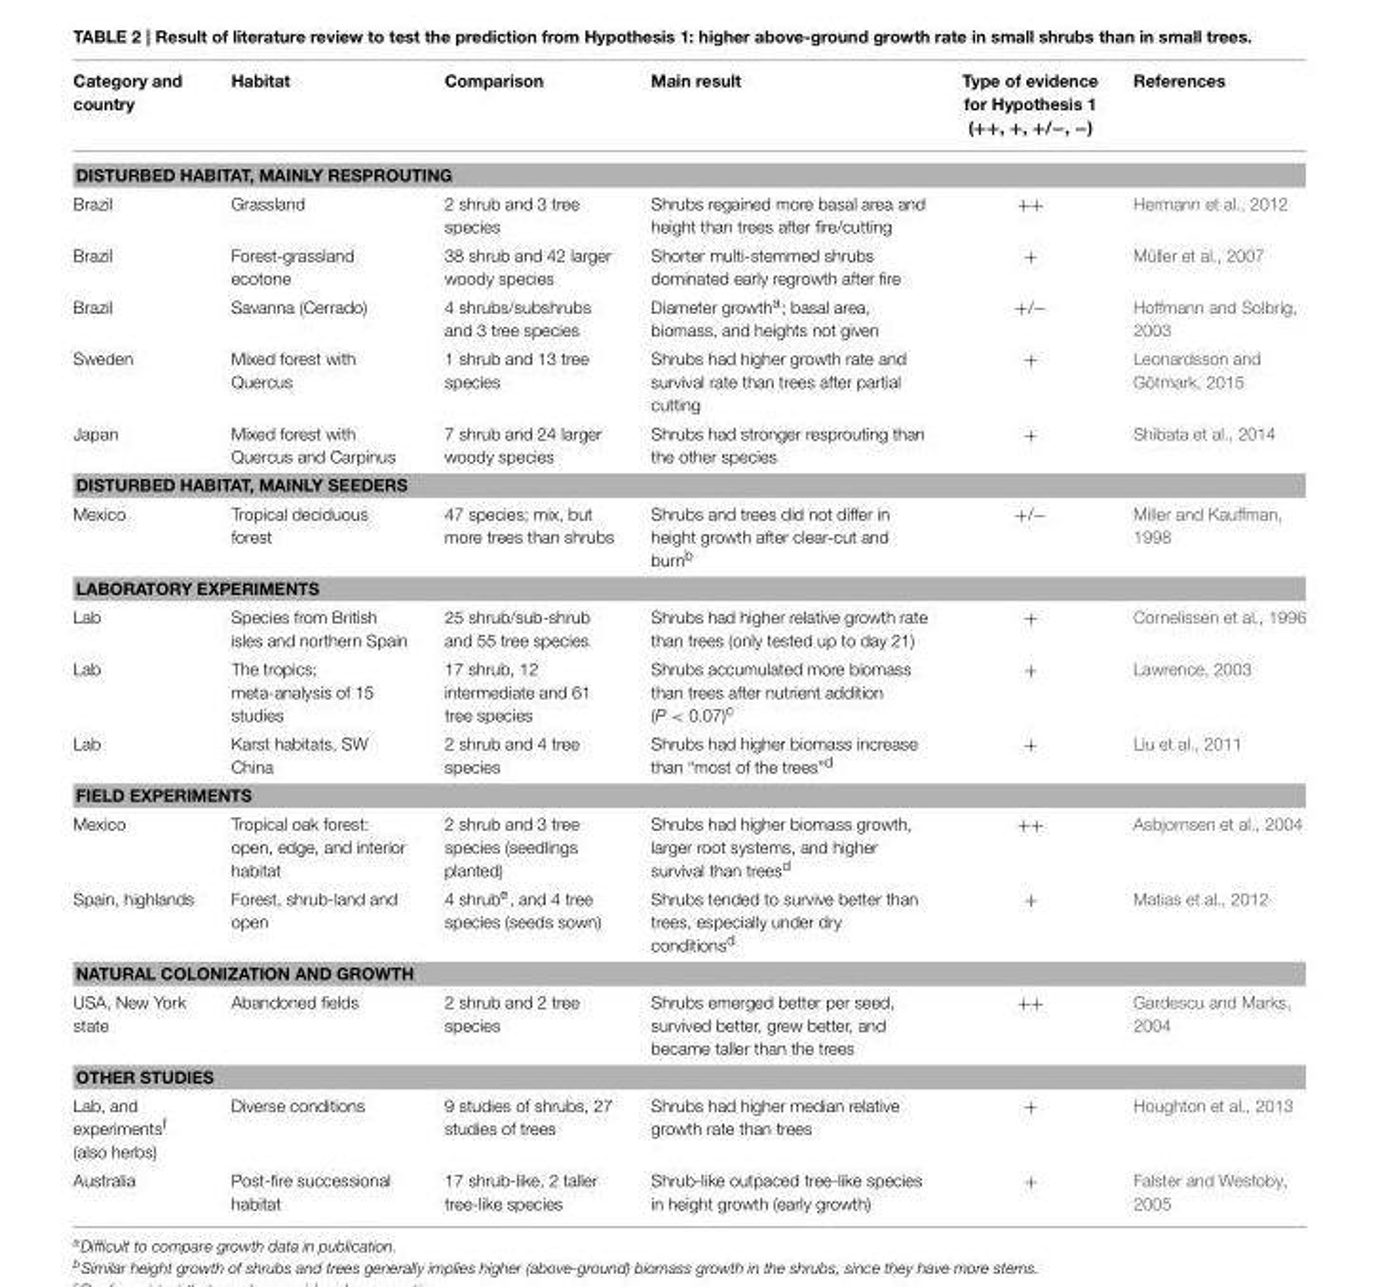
<table><thead><tr><td>Category and country</td><td>Habitat</td><td>Comparison</td><td>Main result</td><td>Type of evidence for Hypothesis 1 (++, +, +/−, −)</td><td>References</td></tr></thead><tbody><tr><td colspan="6">DISTURBED HABITAT, MAINLY RESPROUTING</td></tr><tr><td>Brazil</td><td>Grassland</td><td>2 shrub and 3 tree species</td><td>Shrubs regained more basal area and height than trees after fire/cutting</td><td>++</td><td>Hermann et al., 2012</td></tr><tr><td>Brazil</td><td>Forest-grassland ecotone</td><td>38 shrub and 42 larger woody species</td><td>Shorter multi-stemmed shrubs dominated early regrowth after fire</td><td>+</td><td>Müller et al., 2007</td></tr><tr><td>Brazil</td><td>Savanna (Cerrado)</td><td>4 shrubs/subshrubs and 3 tree species</td><td>Diameter growth<sup>a</sup>; basal area, biomass, and heights not given</td><td>+/−</td><td>Hoffmann and Solbrig, 2003</td></tr><tr><td>Sweden</td><td>Mixed forest with Quercus</td><td>1 shrub and 13 tree species</td><td>Shrubs had higher growth rate and survival rate than trees after partial cutting</td><td>+</td><td>Leonardsson and Götmark, 2015</td></tr><tr><td>Japan</td><td>Mixed forest with Quercus and Carpinus</td><td>7 shrub and 24 larger woody species</td><td>Shrubs had stronger resprouting than the other species</td><td>+</td><td>Shibata et al., 2014</td></tr><tr><td colspan="6">DISTURBED HABITAT, MAINLY SEEDERS</td></tr><tr><td>Mexico</td><td>Tropical deciduous forest</td><td>47 species; mix, but more trees than shrubs</td><td>Shrubs and trees did not differ in height growth after clear-cut and burn<sup>b</sup></td><td>+/−</td><td>Miller and Kauffman, 1998</td></tr><tr><td colspan="6">LABORATORY EXPERIMENTS</td></tr><tr><td>Lab</td><td>Species from British isles and northern Spain</td><td>25 shrub/sub-shrub and 55 tree species</td><td>Shrubs had higher relative growth rate than trees (only tested up to day 21)</td><td>+</td><td>Cornelissen et al., 1996</td></tr><tr><td>Lab</td><td>The tropics; meta-analysis of 15 studies</td><td>17 shrub, 12 intermediate and 61 tree species</td><td>Shrubs accumulated more biomass than trees after nutrient addition (P &lt; 0.07)<sup>c</sup></td><td>+</td><td>Lawrence, 2003</td></tr><tr><td>Lab</td><td>Karst habitats, SW China</td><td>2 shrub and 4 tree species</td><td>Shrubs had higher biomass increase than “most of the trees”<sup>d</sup></td><td>+</td><td>Liu et al., 2011</td></tr><tr><td colspan="6">FIELD EXPERIMENTS</td></tr><tr><td>Mexico</td><td>Tropical oak forest: open, edge, and interior habitat</td><td>2 shrub and 3 tree species (seedlings planted)</td><td>Shrubs had higher biomass growth, larger root systems, and higher survival than trees<sup>d</sup></td><td>++</td><td>Asbjornsen et al., 2004</td></tr><tr><td>Spain, highlands</td><td>Forest, shrub-land and open</td><td>4 shrub<sup>e</sup>, and 4 tree species (seeds sown)</td><td>Shrubs tended to survive better than trees, especially under dry conditions<sup>d</sup></td><td>+</td><td>Matias et al., 2012</td></tr><tr><td colspan="6">NATURAL COLONIZATION AND GROWTH</td></tr><tr><td>USA, New York state</td><td>Abandoned fields</td><td>2 shrub and 2 tree species</td><td>Shrubs emerged better per seed, survived better, grew better, and became taller than the trees</td><td>++</td><td>Gardescu and Marks, 2004</td></tr><tr><td colspan="6">OTHER STUDIES</td></tr><tr><td>Lab, and experiments<sup>f</sup> (also herbs)</td><td>Diverse conditions</td><td>9 studies of shrubs, 27 studies of trees</td><td>Shrubs had higher median relative growth rate than trees</td><td>+</td><td>Houghton et al., 2013</td></tr><tr><td>Australia</td><td>Post-fire successional habitat</td><td>17 shrub-like, 2 taller tree-like species</td><td>Shrub-like outpaced tree-like species in height growth (early growth)</td><td>+</td><td>Falster and Westoby, 2005</td></tr></tbody></table>